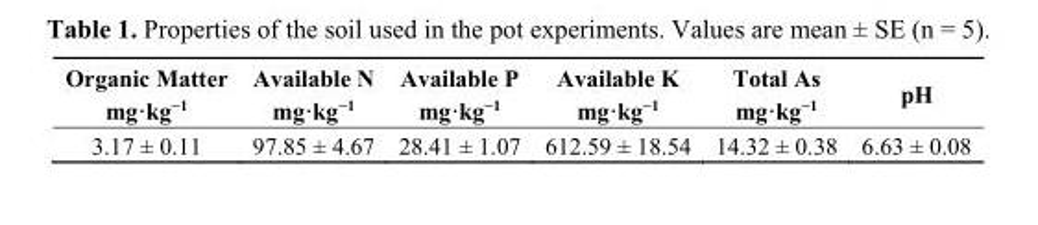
<table><thead><tr><td>Organic Matter mg·kg<sup>−1</sup></td><td>Available N mg·kg<sup>−1</sup></td><td>Available P mg·kg<sup>−1</sup></td><td>Available K mg·kg<sup>−1</sup></td><td>Total As mg·kg<sup>−1</sup></td><td>pH</td></tr></thead><tbody><tr><td>3.17 ± 0.11</td><td>97.85 ± 4.67</td><td>28.41 ± 1.07</td><td>612.59 ± 18.54</td><td>14.32 ± 0.38</td><td>6.63 ± 0.08</td></tr></tbody></table>